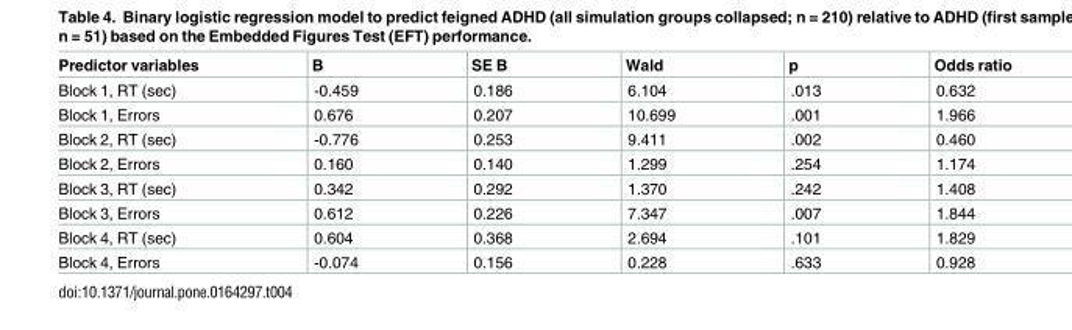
<table><thead><tr><td>Predictor variables</td><td>B</td><td>SE B</td><td>Wald</td><td>p</td><td>Odds ratio</td></tr></thead><tbody><tr><td>Block 1, RT (sec)</td><td>-0.459</td><td>0.186</td><td>6.104</td><td>.013</td><td>0.632</td></tr><tr><td>Block 1, Errors</td><td>0.676</td><td>0.207</td><td>10.699</td><td>.001</td><td>1.966</td></tr><tr><td>Block 2, RT (sec)</td><td>-0.776</td><td>0.253</td><td>9.411</td><td>.002</td><td>0.460</td></tr><tr><td>Block 2, Errors</td><td>0.160</td><td>0.140</td><td>1.299</td><td>.254</td><td>1.174</td></tr><tr><td>Block 3, RT (sec)</td><td>0.342</td><td>0.292</td><td>1.370</td><td>.242</td><td>1.408</td></tr><tr><td>Block 3, Errors</td><td>0.612</td><td>0.226</td><td>7.347</td><td>.007</td><td>1.844</td></tr><tr><td>Block 4, RT (sec)</td><td>0.604</td><td>0.368</td><td>2.694</td><td>.101</td><td>1.829</td></tr><tr><td>Block 4, Errors</td><td>-0.074</td><td>0.156</td><td>0.228</td><td>.633</td><td>0.928</td></tr></tbody></table>